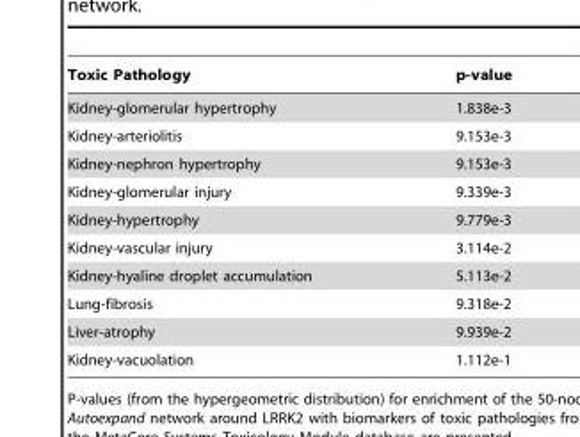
<table><thead><tr><td>Toxic Pathology</td><td>p-value</td></tr></thead><tbody><tr><td>Kidney-glomerular hypertrophy</td><td>1.838e-3</td></tr><tr><td>Kidney-arteriolitis</td><td>9.153e-3</td></tr><tr><td>Kidney-nephron hypertrophy</td><td>9.153e-3</td></tr><tr><td>Kidney-glomerular injury</td><td>9.339e-3</td></tr><tr><td>Kidney-hypertrophy</td><td>9.779e-3</td></tr><tr><td>Kidney-vascular injury</td><td>3.114e-2</td></tr><tr><td>Kidney-hyaline droplet accumulation</td><td>5.113e-2</td></tr><tr><td>Lung-fibrosis</td><td>9.318e-2</td></tr><tr><td>Liver-atrophy</td><td>9.939e-2</td></tr><tr><td>Kidney-vacuolation</td><td>1.112e-1</td></tr></tbody></table>